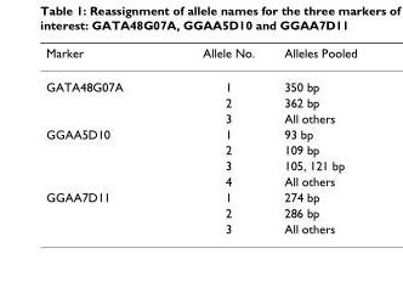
<table><thead><tr><td>Marker</td><td>Allele No.</td><td>Alleles Pooled</td></tr></thead><tbody><tr><td rowspan="3">GATA48G07A</td><td>1</td><td>350 bp</td></tr><tr><td>2</td><td>362 bp</td></tr><tr><td>3</td><td>All others</td></tr><tr><td rowspan="4">GGAA5D10</td><td>1</td><td>93 bp</td></tr><tr><td>2</td><td>109 bp</td></tr><tr><td>3</td><td>105, 121 bp</td></tr><tr><td>4</td><td>All others</td></tr><tr><td rowspan="3">GGAA7D11</td><td>1</td><td>274 bp</td></tr><tr><td>2</td><td>286 bp</td></tr><tr><td>3</td><td>All others</td></tr></tbody></table>